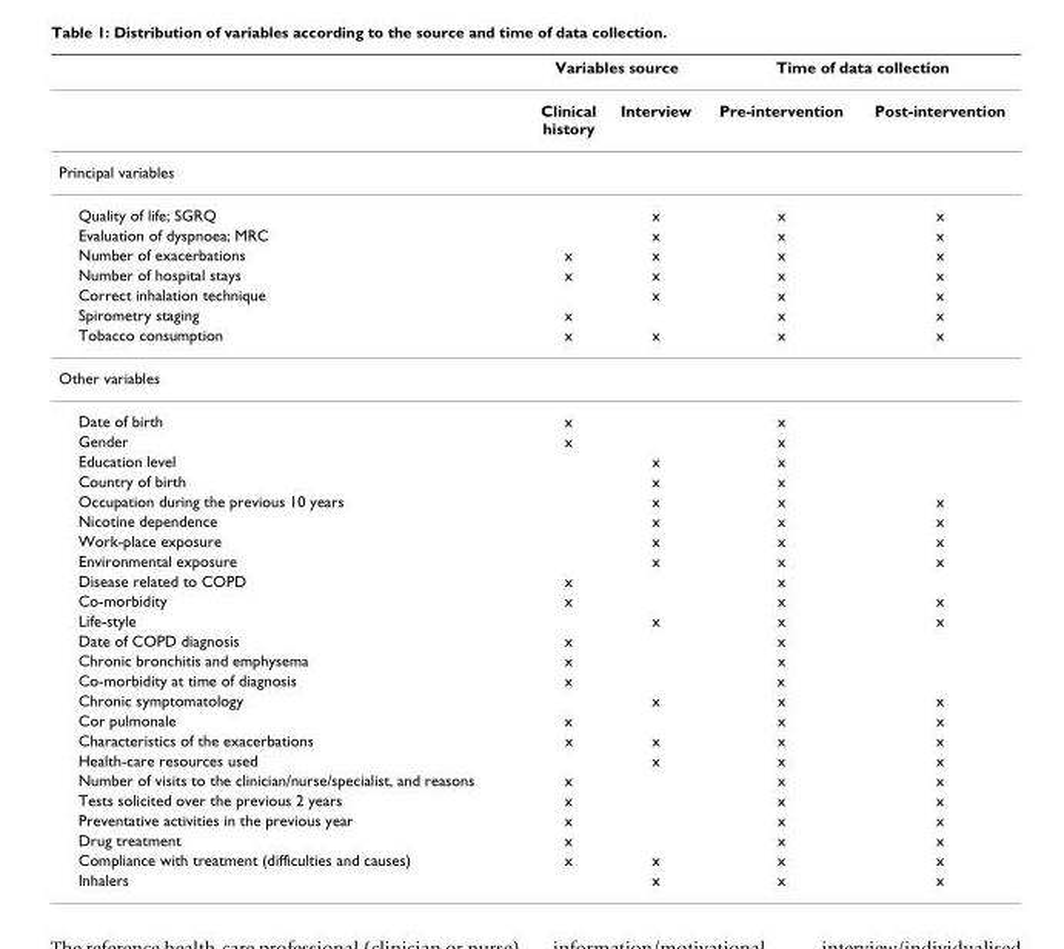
<table><thead><tr><td rowspan="2"></td><td colspan="2">Variables source</td><td colspan="2">Time of data collection</td></tr><tr><td>Clinical history</td><td>Interview</td><td>Pre-intervention</td><td>Post-intervention</td></tr></thead><tbody><tr><td colspan="5">Principal variables</td></tr><tr><td>Quality of life; SGRQ</td><td></td><td>x</td><td>x</td><td>x</td></tr><tr><td>Evaluation of dyspnoea; MRC</td><td></td><td>x</td><td>x</td><td>x</td></tr><tr><td>Number of exacerbations</td><td>x</td><td>x</td><td>x</td><td>x</td></tr><tr><td>Number of hospital stays</td><td>x</td><td>x</td><td>x</td><td>x</td></tr><tr><td>Correct inhalation technique</td><td></td><td>x</td><td>x</td><td>x</td></tr><tr><td>Spirometry staging</td><td>x</td><td></td><td>x</td><td>x</td></tr><tr><td>Tobacco consumption</td><td>x</td><td>x</td><td>x</td><td>x</td></tr><tr><td colspan="5">Other variables</td></tr><tr><td>Date of birth</td><td>x</td><td></td><td>x</td><td></td></tr><tr><td>Gender</td><td>x</td><td></td><td>x</td><td></td></tr><tr><td>Education level</td><td></td><td>x</td><td>x</td><td></td></tr><tr><td>Country of birth</td><td></td><td>x</td><td>x</td><td></td></tr><tr><td>Occupation during the previous 10 years</td><td></td><td>x</td><td>x</td><td>x</td></tr><tr><td>Nicotine dependence</td><td></td><td>x</td><td>x</td><td>x</td></tr><tr><td>Work-place exposure</td><td></td><td>x</td><td>x</td><td>x</td></tr><tr><td>Environmental exposure</td><td></td><td>x</td><td>x</td><td>x</td></tr><tr><td>Disease related to COPD</td><td>x</td><td></td><td>x</td><td></td></tr><tr><td>Co-morbidity</td><td>x</td><td></td><td>x</td><td>x</td></tr><tr><td>Life-style</td><td></td><td>x</td><td>x</td><td>x</td></tr><tr><td>Date of COPD diagnosis</td><td>x</td><td></td><td>x</td><td></td></tr><tr><td>Chronic bronchitis and emphysema</td><td>x</td><td></td><td>x</td><td></td></tr><tr><td>Co-morbidity at time of diagnosis</td><td>x</td><td></td><td>x</td><td></td></tr><tr><td>Chronic symptomatology</td><td></td><td>x</td><td>x</td><td>x</td></tr><tr><td>Cor pulmonale</td><td>x</td><td></td><td>x</td><td>x</td></tr><tr><td>Characteristics of the exacerbations</td><td>x</td><td>x</td><td>x</td><td>x</td></tr><tr><td>Health-care resources used</td><td></td><td>x</td><td>x</td><td>x</td></tr><tr><td>Number of visits to the clinician/nurse/specialist, and reasons</td><td>x</td><td></td><td>x</td><td>x</td></tr><tr><td>Tests solicited over the previous 2 years</td><td>x</td><td></td><td>x</td><td>x</td></tr><tr><td>Preventative activities in the previous year</td><td>x</td><td></td><td>x</td><td>x</td></tr><tr><td>Drug treatment</td><td>x</td><td></td><td>x</td><td>x</td></tr><tr><td>Compliance with treatment (difficulties and causes)</td><td>x</td><td>x</td><td>x</td><td>x</td></tr><tr><td>Inhalers</td><td></td><td>x</td><td>x</td><td>x</td></tr></tbody></table>